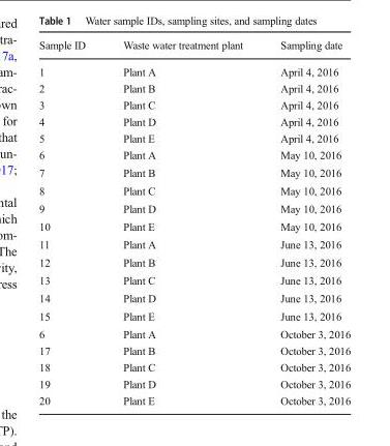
<table><thead><tr><td>Sample ID</td><td>Waste water treatment plant</td><td>Sampling date</td></tr></thead><tbody><tr><td>1</td><td>Plant A</td><td>April 4, 2016</td></tr><tr><td>2</td><td>Plant B</td><td>April 4, 2016</td></tr><tr><td>3</td><td>Plant C</td><td>April 4, 2016</td></tr><tr><td>4</td><td>Plant D</td><td>April 4, 2016</td></tr><tr><td>5</td><td>Plant E</td><td>April 4, 2016</td></tr><tr><td>6</td><td>Plant A</td><td>May 10, 2016</td></tr><tr><td>7</td><td>Plant B</td><td>May 10, 2016</td></tr><tr><td>8</td><td>Plant C</td><td>May 10, 2016</td></tr><tr><td>9</td><td>Plant D</td><td>May 10, 2016</td></tr><tr><td>10</td><td>Plant E</td><td>May 10, 2016</td></tr><tr><td>11</td><td>Plant A</td><td>June 13, 2016</td></tr><tr><td>12</td><td>Plant B</td><td>June 13, 2016</td></tr><tr><td>13</td><td>Plant C</td><td>June 13, 2016</td></tr><tr><td>14</td><td>Plant D</td><td>June 13, 2016</td></tr><tr><td>15</td><td>Plant E</td><td>June 13, 2016</td></tr><tr><td>6</td><td>Plant A</td><td>October 3, 2016</td></tr><tr><td>17</td><td>Plant B</td><td>October 3, 2016</td></tr><tr><td>18</td><td>Plant C</td><td>October 3, 2016</td></tr><tr><td>19</td><td>Plant D</td><td>October 3, 2016</td></tr><tr><td>20</td><td>Plant E</td><td>October 3, 2016</td></tr></tbody></table>